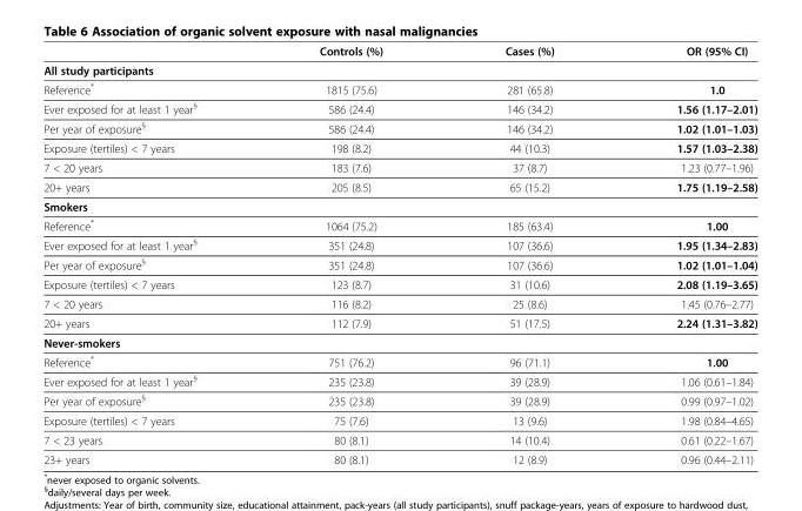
<table><thead><tr><td></td><td>Controls (%)</td><td>Cases (%)</td><td>OR (95% CI)</td></tr></thead><tbody><tr><td colspan="4">All study participants</td></tr><tr><td>Reference*</td><td>1815 (75.6)</td><td>281 (65.8)</td><td>1.0</td></tr><tr><td>Ever exposed for at least 1 year<sup>§</sup></td><td>586 (24.4)</td><td>146 (34.2)</td><td>1.56 (1.17–2.01)</td></tr><tr><td>Per year of exposure<sup>§</sup></td><td>586 (24.4)</td><td>146 (34.2)</td><td>1.02 (1.01–1.03)</td></tr><tr><td>Exposure (tertiles) &lt; 7 years</td><td>198 (8.2)</td><td>44 (10.3)</td><td>1.57 (1.03–2.38)</td></tr><tr><td>7 &lt; 20 years</td><td>183 (7.6)</td><td>37 (8.7)</td><td>1.23 (0.77–1.96)</td></tr><tr><td>20+ years</td><td>205 (8.5)</td><td>65 (15.2)</td><td>1.75 (1.19–2.58)</td></tr><tr><td colspan="4">Smokers</td></tr><tr><td>Reference*</td><td>1064 (75.2)</td><td>185 (63.4)</td><td>1.00</td></tr><tr><td>Ever exposed for at least 1 year<sup>§</sup></td><td>351 (24.8)</td><td>107 (36.6)</td><td>1.95 (1.34–2.83)</td></tr><tr><td>Per year of exposure<sup>§</sup></td><td>351 (24.8)</td><td>107 (36.6)</td><td>1.02 (1.01–1.04)</td></tr><tr><td>Exposure (tertiles) &lt; 7 years</td><td>123 (8.7)</td><td>31 (10.6)</td><td>2.08 (1.19–3.65)</td></tr><tr><td>7 &lt; 20 years</td><td>116 (8.2)</td><td>25 (8.6)</td><td>1.45 (0.76–2.77)</td></tr><tr><td>20+ years</td><td>112 (7.9)</td><td>51 (17.5)</td><td>2.24 (1.31–3.82)</td></tr><tr><td colspan="4">Never-smokers</td></tr><tr><td>Reference*</td><td>751 (76.2)</td><td>96 (71.1)</td><td>1.00</td></tr><tr><td>Ever exposed for at least 1 year<sup>§</sup></td><td>235 (23.8)</td><td>39 (28.9)</td><td>1.06 (0.61–1.84)</td></tr><tr><td>Per year of exposure<sup>§</sup></td><td>235 (23.8)</td><td>39 (28.9)</td><td>0.99 (0.97–1.02)</td></tr><tr><td>Exposure (tertiles) &lt; 7 years</td><td>75 (7.6)</td><td>13 (9.6)</td><td>1.98 (0.84–4.65)</td></tr><tr><td>7 &lt; 23 years</td><td>80 (8.1)</td><td>14 (10.4)</td><td>0.61 (0.22–1.67)</td></tr><tr><td>23+ years</td><td>80 (8.1)</td><td>12 (8.9)</td><td>0.96 (0.44–2.11)</td></tr></tbody></table>